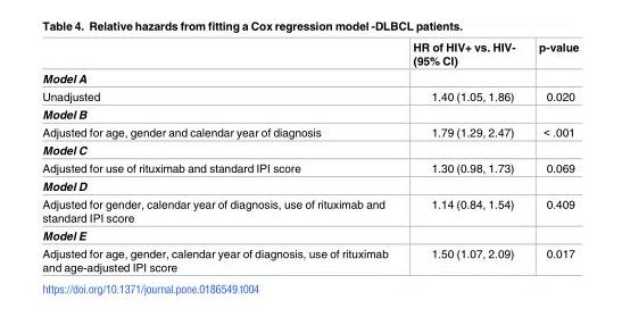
<table><thead><tr><td></td><td>HR of HIV+ vs. HIV- (95% CI)</td><td>p-value</td></tr></thead><tbody><tr><td colspan="3">Model A</td></tr><tr><td>Unadjusted</td><td>1.40 (1.05, 1.86)</td><td>0.020</td></tr><tr><td colspan="3">Model B</td></tr><tr><td>Adjusted for age, gender and calendar year of diagnosis</td><td>1.79 (1.29, 2.47)</td><td>&lt; .001</td></tr><tr><td colspan="3">Model C</td></tr><tr><td>Adjusted for use of rituximab and standard IPI score</td><td>1.30 (0.98, 1.73)</td><td>0.069</td></tr><tr><td colspan="3">Model D</td></tr><tr><td>Adjusted for gender, calendar year of diagnosis, use of rituximab and standard IPI score</td><td>1.14 (0.84, 1.54)</td><td>0.409</td></tr><tr><td colspan="3">Model E</td></tr><tr><td>Adjusted for age, gender, calendar year of diagnosis, use of rituximab and age-adjusted IPI score</td><td>1.50 (1.07, 2.09)</td><td>0.017</td></tr></tbody></table>